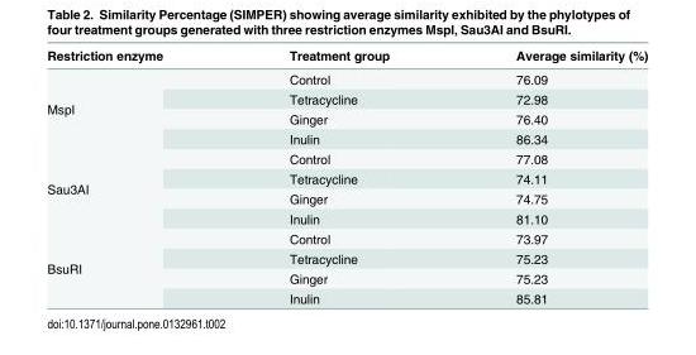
<table><thead><tr><td>Restriction enzyme</td><td>Treatment group</td><td>Average similarity (%)</td></tr></thead><tbody><tr><td rowspan="4">MspI</td><td>Control</td><td>76.09</td></tr><tr><td>Tetracycline</td><td>72.98</td></tr><tr><td>Ginger</td><td>76.40</td></tr><tr><td>Inulin</td><td>86.34</td></tr><tr><td rowspan="4">Sau3AI</td><td>Control</td><td>77.08</td></tr><tr><td>Tetracycline</td><td>74.11</td></tr><tr><td>Ginger</td><td>74.75</td></tr><tr><td>Inulin</td><td>81.10</td></tr><tr><td rowspan="4">BsuRI</td><td>Control</td><td>73.97</td></tr><tr><td>Tetracycline</td><td>75.23</td></tr><tr><td>Ginger</td><td>75.23</td></tr><tr><td>Inulin</td><td>85.81</td></tr></tbody></table>